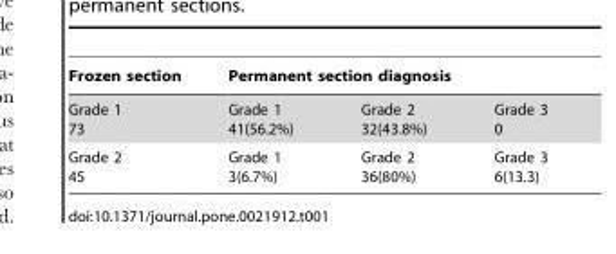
<table><thead><tr><td rowspan="2">Frozen section Grade 1 73</td><td colspan="3">Permanent section diagnosis</td></tr><tr><td>Grade 1 41(56.2%)</td><td>Grade 2 32(43.8%)</td><td>Grade 3 0</td></tr></thead><tbody><tr><td>Grade 2 45</td><td>Grade 1 3(6.7%)</td><td>Grade 2 36(80%)</td><td>Grade 3 6(13.3)</td></tr></tbody></table>